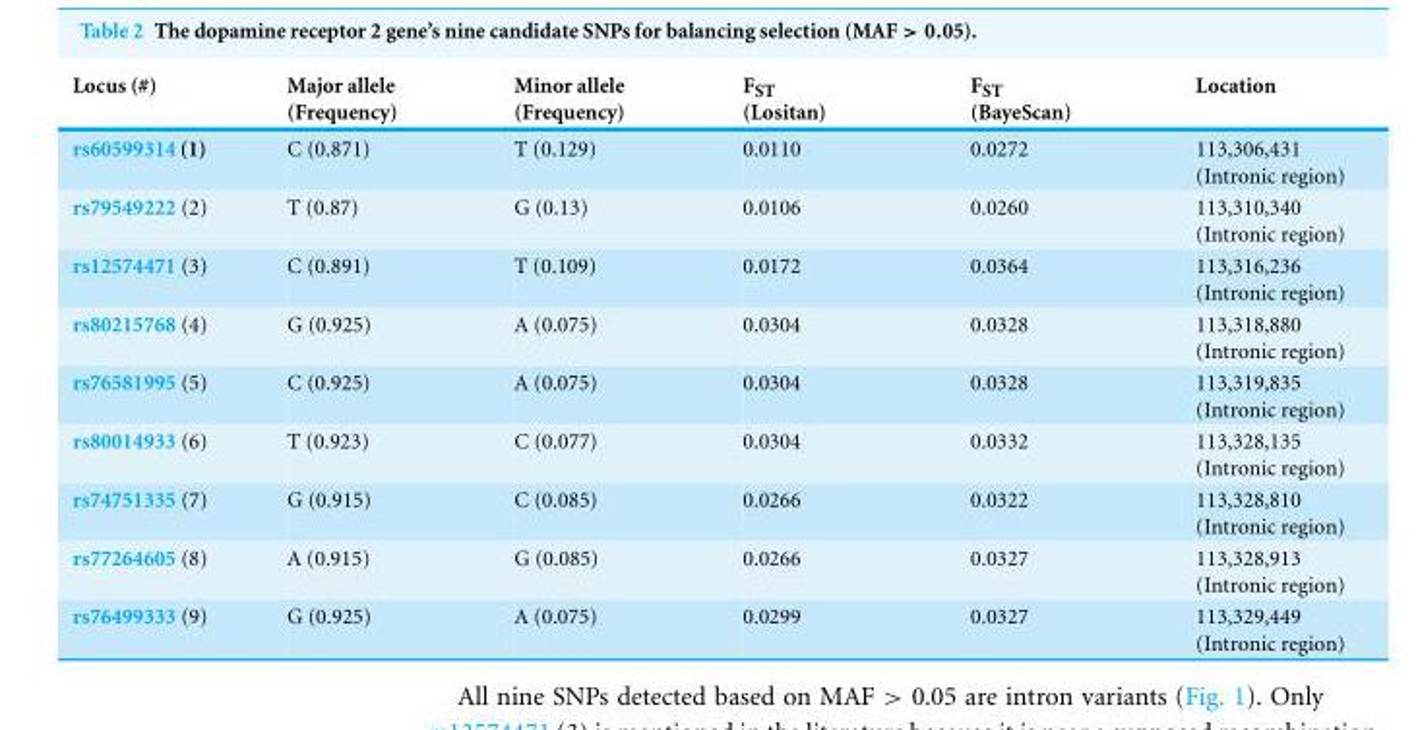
<table><thead><tr><td>Locus (#)</td><td>Major allele (Frequency)</td><td>Minor allele (Frequency)</td><td>F<sub>ST</sub> (Lositan)</td><td>F<sub>ST</sub> (BayeScan)</td><td>Location</td></tr></thead><tbody><tr><td>rs60599314 (1)</td><td>C (0.871)</td><td>T (0.129)</td><td>0.0110</td><td>0.0272</td><td>113,306,431 (Intronic region)</td></tr><tr><td>rs79549222 (2)</td><td>T (0.87)</td><td>G (0.13)</td><td>0.0106</td><td>0.0260</td><td>113,310,340 (Intronic region)</td></tr><tr><td>rs12574471 (3)</td><td>C (0.891)</td><td>T (0.109)</td><td>0.0172</td><td>0.0364</td><td>113,316,236 (Intronic region)</td></tr><tr><td>rs80215768 (4)</td><td>G (0.925)</td><td>A (0.075)</td><td>0.0304</td><td>0.0328</td><td>113,318,880 (Intronic region)</td></tr><tr><td>rs76581995 (5)</td><td>C (0.925)</td><td>A (0.075)</td><td>0.0304</td><td>0.0328</td><td>113,319,835 (Intronic region)</td></tr><tr><td>rs80014933 (6)</td><td>T (0.923)</td><td>C (0.077)</td><td>0.0304</td><td>0.0332</td><td>113,328,135 (Intronic region)</td></tr><tr><td>rs74751335 (7)</td><td>G (0.915)</td><td>C (0.085)</td><td>0.0266</td><td>0.0322</td><td>113,328,810 (Intronic region)</td></tr><tr><td>rs77264605 (8)</td><td>A (0.915)</td><td>G (0.085)</td><td>0.0266</td><td>0.0327</td><td>113,328,913 (Intronic region)</td></tr><tr><td>rs76499333 (9)</td><td>G (0.925)</td><td>A (0.075)</td><td>0.0299</td><td>0.0327</td><td>113,329,449 (Intronic region)</td></tr></tbody></table>